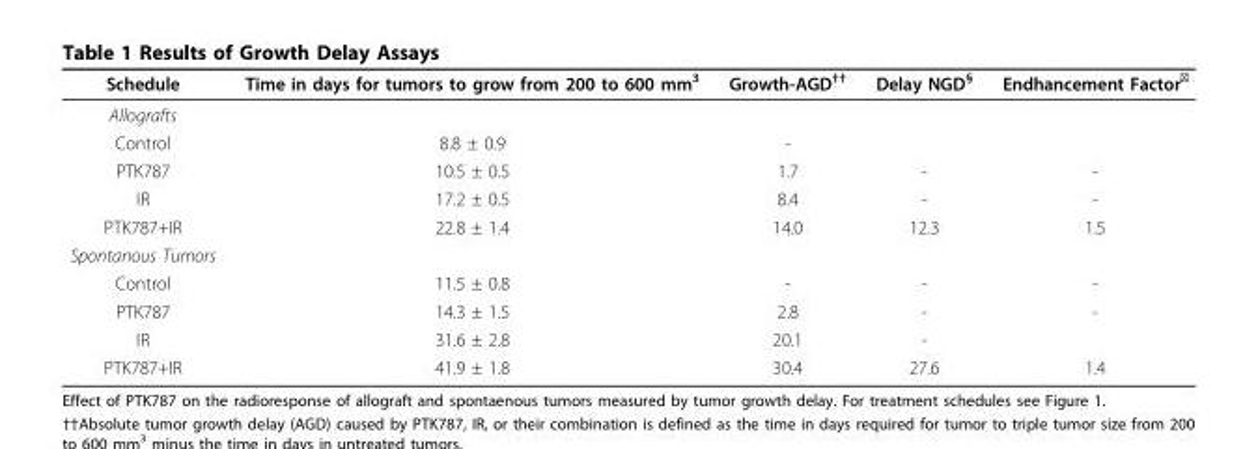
<table><thead><tr><td>Schedule</td><td>Time in days for tumors to grow from 200 to 600 mm<sup>3</sup></td><td>Growth-AGD<sup>††</sup></td><td>Delay NGD<sup>§</sup></td><td>Endhancement Factor<sup>ǁ</sup></td></tr></thead><tbody><tr><td colspan="5">Allografts</td></tr><tr><td>Control</td><td>8.8 ± 0.9</td><td>-</td><td></td><td></td></tr><tr><td>PTK787</td><td>10.5 ± 0.5</td><td>1.7</td><td>-</td><td>-</td></tr><tr><td>IR</td><td>17.2 ± 0.5</td><td>8.4</td><td>-</td><td>-</td></tr><tr><td>PTK787+IR</td><td>22.8 ± 1.4</td><td>14.0</td><td>12.3</td><td>1.5</td></tr><tr><td colspan="5">Spontanous Tumors</td></tr><tr><td>Control</td><td>11.5 ± 0.8</td><td>-</td><td>-</td><td>-</td></tr><tr><td>PTK787</td><td>14.3 ± 1.5</td><td>2.8</td><td>-</td><td>-</td></tr><tr><td>IR</td><td>31.6 ± 2.8</td><td>20.1</td><td>-</td><td></td></tr><tr><td>PTK787+IR</td><td>41.9 ± 1.8</td><td>30.4</td><td>27.6</td><td>1.4</td></tr></tbody></table>